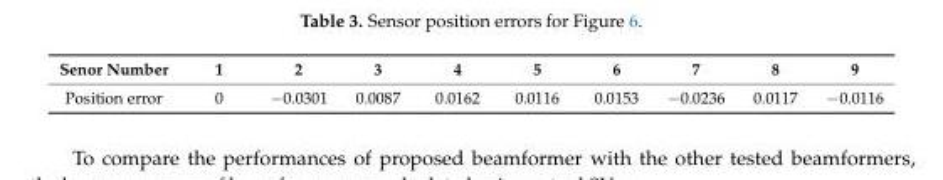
<table><thead><tr><td>Senor Number</td><td>1</td><td>2</td><td>3</td><td>4</td><td>5</td><td>6</td><td>7</td><td>8</td><td>9</td></tr></thead><tbody><tr><td>Position error</td><td>0</td><td>−0.0301</td><td>0.0087</td><td>0.0162</td><td>0.0116</td><td>0.0153</td><td>−0.0236</td><td>0.0117</td><td>−0.0116</td></tr></tbody></table>